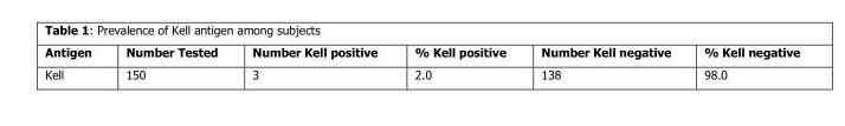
<table><thead><tr><td>Antigen</td><td>Number Tested</td><td>Number Kell positive</td><td>% Kell positive</td><td>Number Kell negative</td><td>% Kell negative</td></tr></thead><tbody><tr><td>Kell</td><td>150</td><td>3</td><td>2.0</td><td>138</td><td>98.0</td></tr></tbody></table>